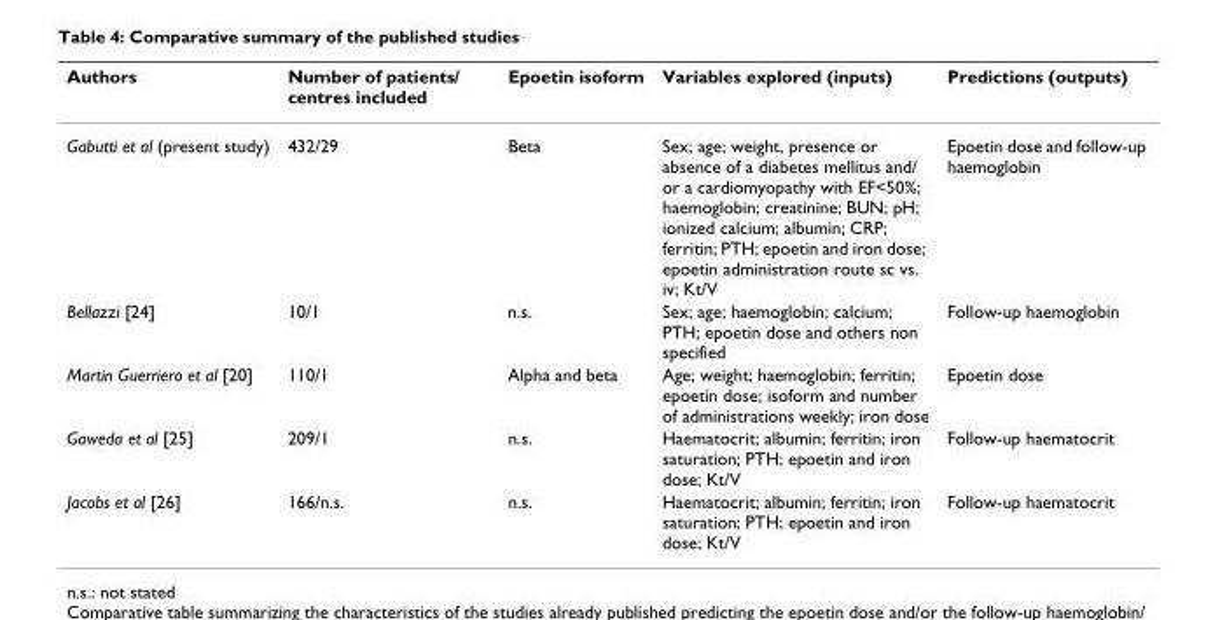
<table><thead><tr><td>Authors</td><td>Number of patients/ centres included</td><td>Epoetin isoform</td><td>Variables explored (inputs)</td><td>Predictions (outputs)</td></tr></thead><tbody><tr><td>Gabutti et al (present study)</td><td>432/29</td><td>Beta</td><td>Sex; age; weight, presence or absence of a diabetes mellitus and/ or a cardiomyopathy with EF&lt;50%; haemoglobin; creatinine; BUN; pH; ionized calcium; albumin; CRP; ferritin; PTH; epoetin and iron dose; epoetin administration route sc vs. iv; Kt/V</td><td>Epoetin dose and follow-up haemoglobin</td></tr><tr><td>Bellazzi [24]</td><td>10/1</td><td>n.s.</td><td>Sex; age; haemoglobin; calcium; PTH; epoetin dose and others non specified</td><td>Follow-up haemoglobin</td></tr><tr><td>Martin Guerriero et al [20]</td><td>110/1</td><td>Alpha and beta</td><td>Age; weight; haemoglobin; ferritin; epoetin dose; isoform and number of administrations weekly; iron dose</td><td>Epoetin dose</td></tr><tr><td>Gaweda et al [25]</td><td>209/1</td><td>n.s.</td><td>Haematocrit; albumin; ferritin; iron saturation; PTH; epoetin and iron dose; Kt/V</td><td>Follow-up haematocrit</td></tr><tr><td>Jacobs et al [26]</td><td>166/n.s.</td><td>n.s.</td><td>Haematocrit; albumin; ferritin; iron saturation; PTH; epoetin and iron dose; Kt/V</td><td>Follow-up haematocrit</td></tr></tbody></table>